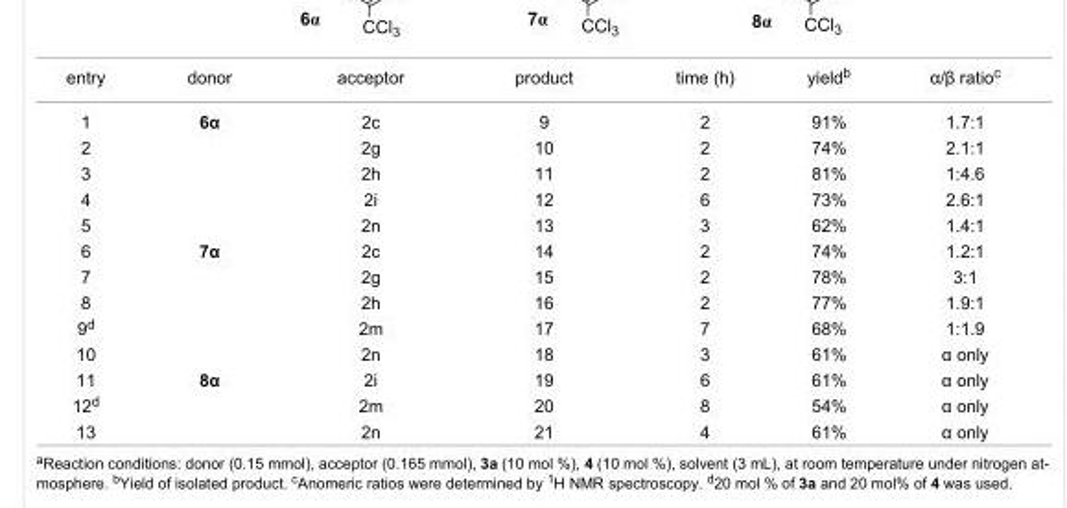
<table><tbody><tr><td>entry</td><td>donor</td><td>acceptor</td><td>product</td><td>time (h)</td><td>yield<sup>b</sup></td><td>α/β ratio<sup>c</sup></td></tr><tr><td>1</td><td rowspan="5">6α</td><td>2c</td><td>9</td><td>2</td><td>91%</td><td>1.7:1</td></tr><tr><td>2</td><td>2g</td><td>10</td><td>2</td><td>74%</td><td>2.1:1</td></tr><tr><td>3</td><td>2h</td><td>11</td><td>2</td><td>81%</td><td>1:4.6</td></tr><tr><td>4</td><td>2i</td><td>12</td><td>6</td><td>73%</td><td>2.6:1</td></tr><tr><td>5</td><td>2n</td><td>13</td><td>3</td><td>62%</td><td>1.4:1</td></tr><tr><td>6</td><td rowspan="5">7α</td><td>2c</td><td>14</td><td>2</td><td>74%</td><td>1.2:1</td></tr><tr><td>7</td><td>2g</td><td>15</td><td>2</td><td>78%</td><td>3:1</td></tr><tr><td>8</td><td>2h</td><td>16</td><td>2</td><td>77%</td><td>1.9:1</td></tr><tr><td>9<sup>d</sup></td><td>2m</td><td>17</td><td>7</td><td>68%</td><td>1:1.9</td></tr><tr><td>10</td><td>2n</td><td>18</td><td>3</td><td>61%</td><td>α only</td></tr><tr><td>11</td><td rowspan="3">8α</td><td>2i</td><td>19</td><td>6</td><td>61%</td><td>α only</td></tr><tr><td>12<sup>d</sup></td><td>2m</td><td>20</td><td>8</td><td>54%</td><td>α only</td></tr><tr><td>13</td><td>2n</td><td>21</td><td>4</td><td>61%</td><td>α only</td></tr></tbody></table>